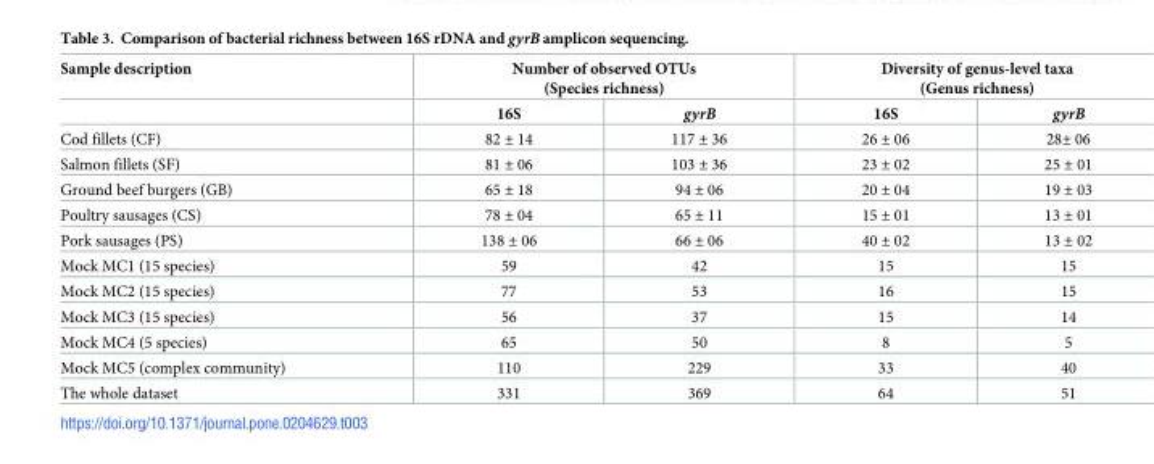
<table><thead><tr><td rowspan="2">Sample description</td><td colspan="2">Number of observed OTUs (Species richness)</td><td colspan="2">Diversity of genus-level taxa (Genus richness)</td></tr><tr><td>16S</td><td>gyrB</td><td>16S</td><td>gyrB</td></tr></thead><tbody><tr><td>Cod fillets (CF)</td><td>82 ± 14</td><td>117 ± 36</td><td>26 ± 06</td><td>28± 06</td></tr><tr><td>Salmon fillets (SF)</td><td>81 ± 06</td><td>103 ± 36</td><td>23 ± 02</td><td>25 ± 01</td></tr><tr><td>Ground beef burgers (GB)</td><td>65 ± 18</td><td>94 ± 06</td><td>20 ± 04</td><td>19 ± 03</td></tr><tr><td>Poultry sausages (CS)</td><td>78 ± 04</td><td>65 ± 11</td><td>15 ± 01</td><td>13 ± 01</td></tr><tr><td>Pork sausages (PS)</td><td>138 ± 06</td><td>66 ± 06</td><td>40 ± 02</td><td>13 ± 02</td></tr><tr><td>Mock MC1 (15 species)</td><td>59</td><td>42</td><td>15</td><td>15</td></tr><tr><td>Mock MC2 (15 species)</td><td>77</td><td>53</td><td>16</td><td>15</td></tr><tr><td>Mock MC3 (15 species)</td><td>56</td><td>37</td><td>15</td><td>14</td></tr><tr><td>Mock MC4 (5 species)</td><td>65</td><td>50</td><td>8</td><td>5</td></tr><tr><td>Mock MC5 (complex community)</td><td>110</td><td>229</td><td>33</td><td>40</td></tr><tr><td>The whole dataset</td><td>331</td><td>369</td><td>64</td><td>51</td></tr></tbody></table>